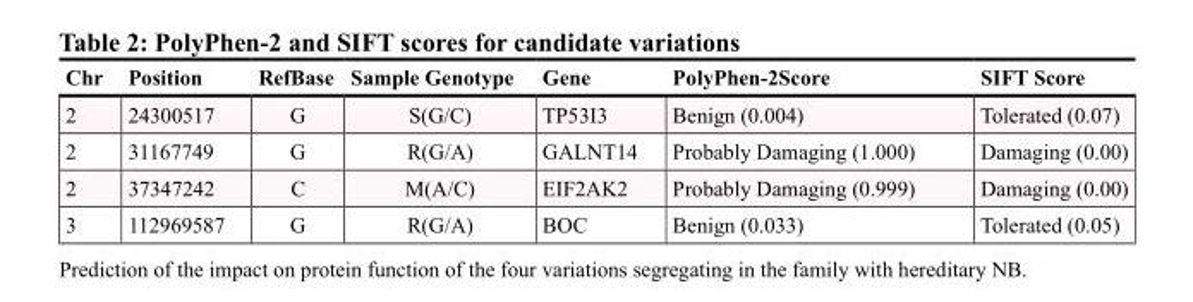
<table><thead><tr><td>Chr</td><td>Position</td><td>RefBase</td><td>Sample Genotype</td><td>Gene</td><td>PolyPhen-2Score</td><td>SIFT Score</td></tr></thead><tbody><tr><td>2</td><td>24300517</td><td>G</td><td>S(G/C)</td><td>TP53I3</td><td>Benign (0.004)</td><td>Tolerated (0.07)</td></tr><tr><td>2</td><td>31167749</td><td>G</td><td>R(G/A)</td><td>GALNT14</td><td>Probably Damaging (1.000)</td><td>Damaging (0.00)</td></tr><tr><td>2</td><td>37347242</td><td>C</td><td>M(A/C)</td><td>EIF2AK2</td><td>Probably Damaging (0.999)</td><td>Damaging (0.00)</td></tr><tr><td>3</td><td>112969587</td><td>G</td><td>R(G/A)</td><td>BOC</td><td>Benign (0.033)</td><td>Tolerated (0.05)</td></tr></tbody></table>